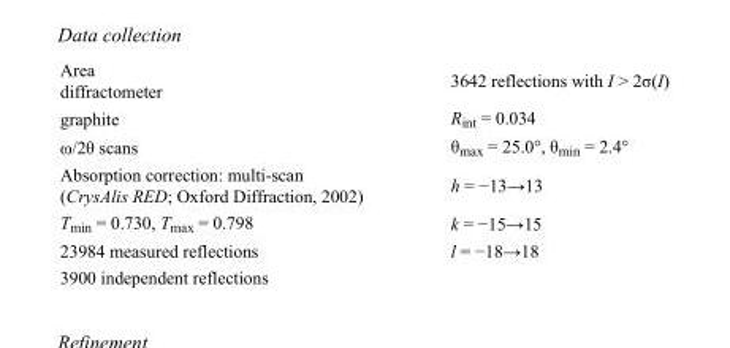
<table><tbody><tr><td>Area diffractometer</td><td>3642 reflections with I &gt; 2σ(I)</td></tr><tr><td>graphite</td><td>R<sub>int</sub> = 0.034</td></tr><tr><td>ω/2θ scans</td><td>θ<sub>max</sub> = 25.0°, θ<sub>min</sub> = 2.4°</td></tr><tr><td>Absorption correction: multi-scan (CrysAlis RED; Oxford Diffraction, 2002)</td><td>h = −13→13</td></tr><tr><td>T<sub>min</sub> = 0.730, T<sub>max</sub> = 0.798</td><td>k = −15→15</td></tr><tr><td>23984 measured reflections</td><td>l = −18→18</td></tr><tr><td>3900 independent reflections</td><td></td></tr></tbody></table>